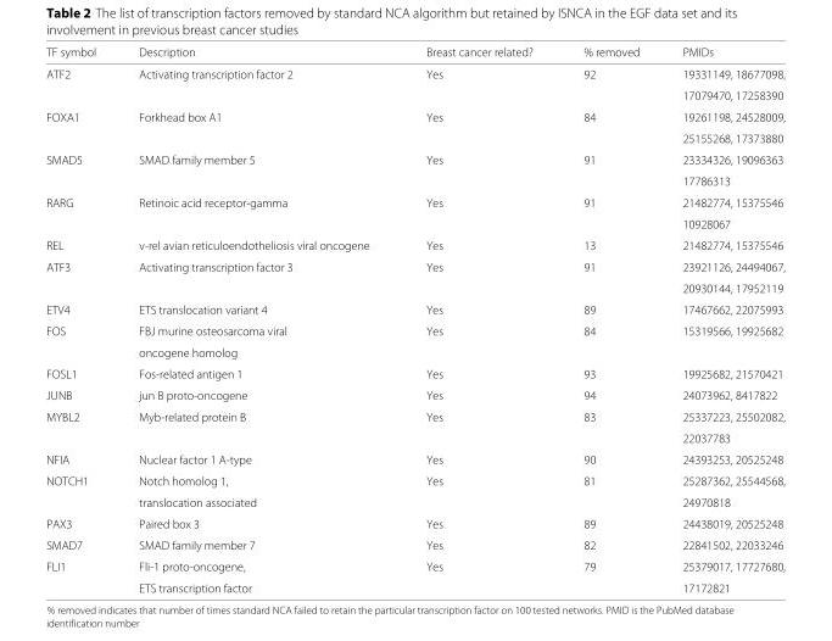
<table><thead><tr><td>TF symbol</td><td>Description</td><td>Breast cancer related?</td><td>% removed</td><td>PMIDs</td></tr></thead><tbody><tr><td rowspan="2">ATF2</td><td>Activating transcription factor 2</td><td>Yes</td><td>92</td><td>19331149, 18677098,</td></tr><tr><td></td><td></td><td></td><td>17079470, 17258390</td></tr><tr><td rowspan="2">FOXA1</td><td>Forkhead box A1</td><td>Yes</td><td>84</td><td>19261198, 24528009,</td></tr><tr><td></td><td></td><td></td><td>25155268, 17373880</td></tr><tr><td rowspan="2">SMAD5</td><td>SMAD family member 5</td><td>Yes</td><td>91</td><td>23334326, 19096363</td></tr><tr><td></td><td></td><td></td><td>17786313</td></tr><tr><td rowspan="2">RARG</td><td>Retinoic acid receptor-gamma</td><td>Yes</td><td>91</td><td>21482774, 15375546</td></tr><tr><td></td><td></td><td></td><td>10928067</td></tr><tr><td>REL</td><td>v-rel avian reticuloendotheliosis viral oncogene</td><td>Yes</td><td>13</td><td>21482774, 15375546</td></tr><tr><td rowspan="2">ATF3</td><td>Activating transcription factor 3</td><td>Yes</td><td>91</td><td>23921126, 24494067,</td></tr><tr><td></td><td></td><td></td><td>20930144, 17952119</td></tr><tr><td>ETV4</td><td>ETS translocation variant 4</td><td>Yes</td><td>89</td><td>17467662, 22075993</td></tr><tr><td rowspan="2">FOS</td><td>FBJ murine osteosarcoma viral</td><td>Yes</td><td>84</td><td>15319566, 19925682</td></tr><tr><td>oncogene homolog</td><td></td><td></td><td></td></tr><tr><td>FOSL1</td><td>Fos-related antigen 1</td><td>Yes</td><td>93</td><td>19925682, 21570421</td></tr><tr><td>JUNB</td><td>jun B proto-oncogene</td><td>Yes</td><td>94</td><td>24073962, 8417822</td></tr><tr><td rowspan="2">MYBL2</td><td>Myb-related protein B</td><td>Yes</td><td>83</td><td>25337223, 25502082,</td></tr><tr><td></td><td></td><td></td><td>22037783</td></tr><tr><td>NFIA</td><td>Nuclear factor 1 A-type</td><td>Yes</td><td>90</td><td>24393253, 20525248</td></tr><tr><td rowspan="2">NOTCH1</td><td>Notch homolog 1,</td><td>Yes</td><td>81</td><td>25287362, 25544568,</td></tr><tr><td>translocation associated</td><td></td><td></td><td>24970818</td></tr><tr><td>PAX3</td><td>Paired box 3</td><td>Yes</td><td>89</td><td>24438019, 20525248</td></tr><tr><td>SMAD7</td><td>SMAD family member 7</td><td>Yes</td><td>82</td><td>22841502, 22033246</td></tr><tr><td rowspan="2">FLI1</td><td>Fli-1 proto-oncogene,</td><td>Yes</td><td>79</td><td>25379017, 17727680,</td></tr><tr><td>ETS transcription factor</td><td></td><td></td><td>17172821</td></tr></tbody></table>